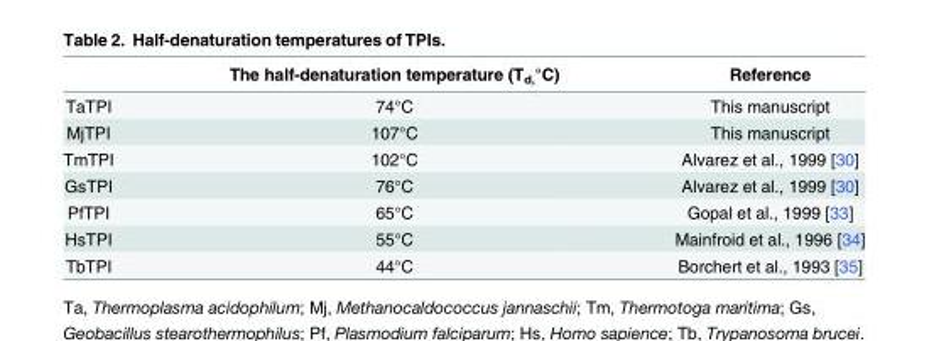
<table><thead><tr><td></td><td>The half-denaturation temperature (T<sub>d,</sub>°C)</td><td>Reference</td></tr></thead><tbody><tr><td>TaTPI</td><td>74°C</td><td>This manuscript</td></tr><tr><td>MjTPI</td><td>107°C</td><td>This manuscript</td></tr><tr><td>TmTPI</td><td>102°C</td><td>Alvarez et al., 1999 [30]</td></tr><tr><td>GsTPI</td><td>76°C</td><td>Alvarez et al., 1999 [30]</td></tr><tr><td>PfTPI</td><td>65°C</td><td>Gopal et al., 1999 [33]</td></tr><tr><td>HsTPI</td><td>55°C</td><td>Mainfroid et al., 1996 [34]</td></tr><tr><td>TbTPI</td><td>44°C</td><td>Borchert et al., 1993 [35]</td></tr></tbody></table>